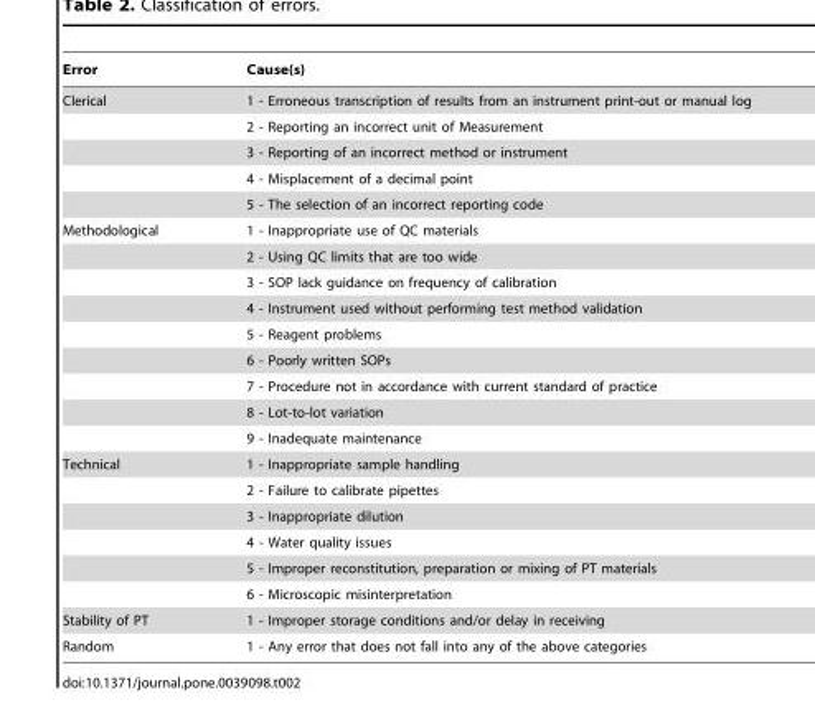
<table><thead><tr><td>Error</td><td>Cause(s)</td></tr></thead><tbody><tr><td rowspan="5">Clerical</td><td>1 - Erroneous transcription of results from an instrument print-out or manual log</td></tr><tr><td>2 - Reporting an incorrect unit of Measurement</td></tr><tr><td>3 - Reporting of an incorrect method or instrument</td></tr><tr><td>4 - Misplacement of a decimal point</td></tr><tr><td>5 - The selection of an incorrect reporting code</td></tr><tr><td rowspan="9">Methodological</td><td>1 - Inappropriate use of QC materials</td></tr><tr><td>2 - Using QC limits that are too wide</td></tr><tr><td>3 - SOP lack guidance on frequency of calibration</td></tr><tr><td>4 - Instrument used without performing test method validation</td></tr><tr><td>5 - Reagent problems</td></tr><tr><td>6 - Poorly written SOPs</td></tr><tr><td>7 - Procedure not in accordance with current standard of practice</td></tr><tr><td>8 - Lot-to-lot variation</td></tr><tr><td>9 - Inadequate maintenance</td></tr><tr><td rowspan="6">Technical</td><td>1 - Inappropriate sample handling</td></tr><tr><td>2 - Failure to calibrate pipettes</td></tr><tr><td>3 - Inappropriate dilution</td></tr><tr><td>4 - Water quality issues</td></tr><tr><td>5 - Improper reconstitution, preparation or mixing of PT materials</td></tr><tr><td>6 - Microscopic misinterpretation</td></tr><tr><td>Stability of PT</td><td>1 - Improper storage conditions and/or delay in receiving</td></tr><tr><td>Random</td><td>1 - Any error that does not fall into any of the above categories</td></tr></tbody></table>